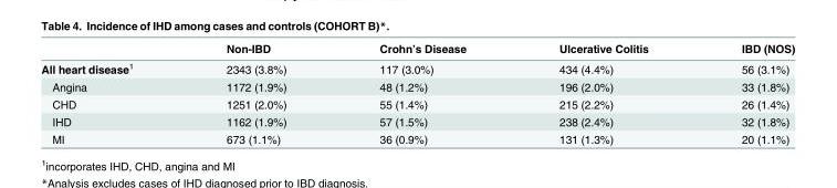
<table><thead><tr><td></td><td>Non-IBD</td><td>Crohn’s Disease</td><td>Ulcerative Colitis</td><td>IBD (NOS)</td></tr></thead><tbody><tr><td>All heart disease<sup>1</sup></td><td>2343 (3.8%)</td><td>117 (3.0%)</td><td>434 (4.4%)</td><td>56 (3.1%)</td></tr><tr><td>Angina</td><td>1172 (1.9%)</td><td>48 (1.2%)</td><td>196 (2.0%)</td><td>33 (1.8%)</td></tr><tr><td>CHD</td><td>1251 (2.0%)</td><td>55 (1.4%)</td><td>215 (2.2%)</td><td>26 (1.4%)</td></tr><tr><td>IHD</td><td>1162 (1.9%)</td><td>57 (1.5%)</td><td>238 (2.4%)</td><td>32 (1.8%)</td></tr><tr><td>MI</td><td>673 (1.1%)</td><td>36 (0.9%)</td><td>131 (1.3%)</td><td>20 (1.1%)</td></tr></tbody></table>